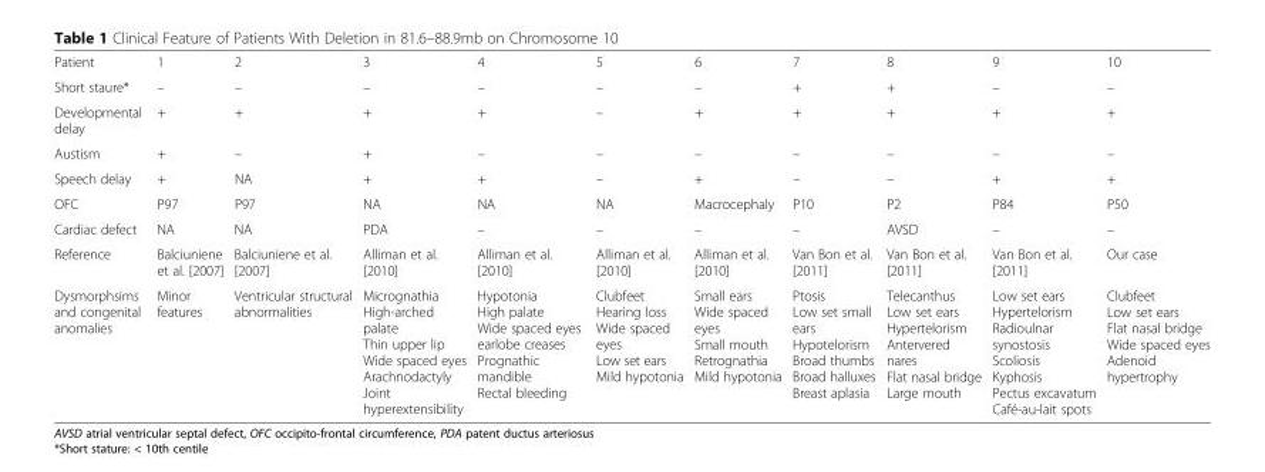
<table><tbody><tr><td>Patient</td><td>1</td><td>2</td><td>3</td><td>4</td><td>5</td><td>6</td><td>7</td><td>8</td><td>9</td><td>10</td></tr><tr><td>Short staure*</td><td>–</td><td>–</td><td>–</td><td>–</td><td>–</td><td>–</td><td>+</td><td>+</td><td>–</td><td>–</td></tr><tr><td>Developmental delay</td><td>+</td><td>+</td><td>+</td><td>+</td><td>–</td><td>+</td><td>+</td><td>+</td><td>+</td><td>+</td></tr><tr><td>Austism</td><td>+</td><td>–</td><td>+</td><td>–</td><td>–</td><td>–</td><td>–</td><td>–</td><td>–</td><td>–</td></tr><tr><td>Speech delay</td><td>+</td><td>NA</td><td>+</td><td>+</td><td>–</td><td>+</td><td>–</td><td>–</td><td>+</td><td>+</td></tr><tr><td>OFC</td><td>P97</td><td>P97</td><td>NA</td><td>NA</td><td>NA</td><td>Macrocephaly</td><td>P10</td><td>P2</td><td>P84</td><td>P50</td></tr><tr><td>Cardiac defect</td><td>NA</td><td>NA</td><td>PDA</td><td>–</td><td>–</td><td>–</td><td>–</td><td>AVSD</td><td>–</td><td>–</td></tr><tr><td>Reference</td><td>Balciuniene et al. [2007]</td><td>Balciuniene et al. [2007]</td><td>Alliman et al. [2010]</td><td>Alliman et al. [2010]</td><td>Alliman et al. [2010]</td><td>Alliman et al. [2010]</td><td>Van Bon et al. [2011]</td><td>Van Bon et al. [2011]</td><td>Van Bon et al. [2011]</td><td>Our case</td></tr><tr><td>Dysmorphsims and congenital anomalies</td><td>Minor features</td><td>Ventricular structural abnormalities</td><td>Micrognathia High-arched palate Thin upper lip Wide spaced eyes Arachnodactyly Joint hyperextensibility</td><td>Hypotonia High palate Wide spaced eyes earlobe creases Prognathic mandible Rectal bleeding</td><td>Clubfeet Hearing loss Wide spaced eyes Low set ears Mild hypotonia</td><td>Small ears Wide spaced eyes Small mouth Retrognathia Mild hypotonia</td><td>Ptosis Low set small ears Hypotelorism Broad thumbs Broad halluxes Breast aplasia</td><td>Telecanthus Low set ears Hypertelorism Antervered nares Flat nasal bridge Large mouth</td><td>Low set ears Hypertelorism Radioulnar synostosis Scoliosis Kyphosis Pectus excavatum Café-au-lait spots</td><td>Clubfeet Low set ears Flat nasal bridge Wide spaced eyes Adenoid hypertrophy</td></tr></tbody></table>